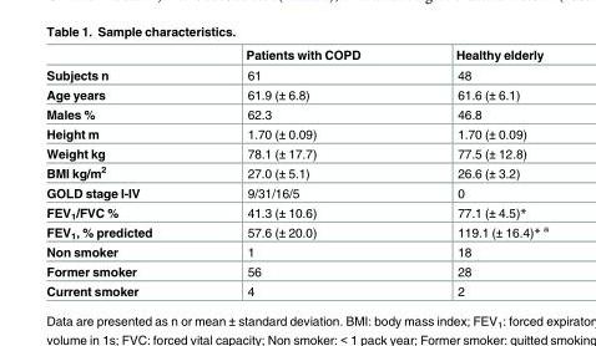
<table><thead><tr><td></td><td>Patients with COPD</td><td>Healthy elderly</td></tr></thead><tbody><tr><td>Subjects n</td><td>61</td><td>48</td></tr><tr><td>Age years</td><td>61.9 (± 6.8)</td><td>61.6 (± 6.1)</td></tr><tr><td>Males %</td><td>62.3</td><td>46.8</td></tr><tr><td>Height m</td><td>1.70 (± 0.09)</td><td>1.70 (± 0.09)</td></tr><tr><td>Weight kg</td><td>78.1 (± 17.7)</td><td>77.5 (± 12.8)</td></tr><tr><td>BMI kg/m<sup>2</sup></td><td>27.0 (± 5.1)</td><td>26.6 (± 3.2)</td></tr><tr><td>GOLD stage I-IV</td><td>9/31/16/5</td><td>0</td></tr><tr><td>FEV<sub>1</sub>/FVC %</td><td>41.3 (± 10.6)</td><td>77.1 (± 4.5)*</td></tr><tr><td>FEV<sub>1</sub>, % predicted</td><td>57.6 (± 20.0)</td><td>119.1 (± 16.4)* <sup>a</sup></td></tr><tr><td>Non smoker</td><td>1</td><td>18</td></tr><tr><td>Former smoker</td><td>56</td><td>28</td></tr><tr><td>Current smoker</td><td>4</td><td>2</td></tr></tbody></table>